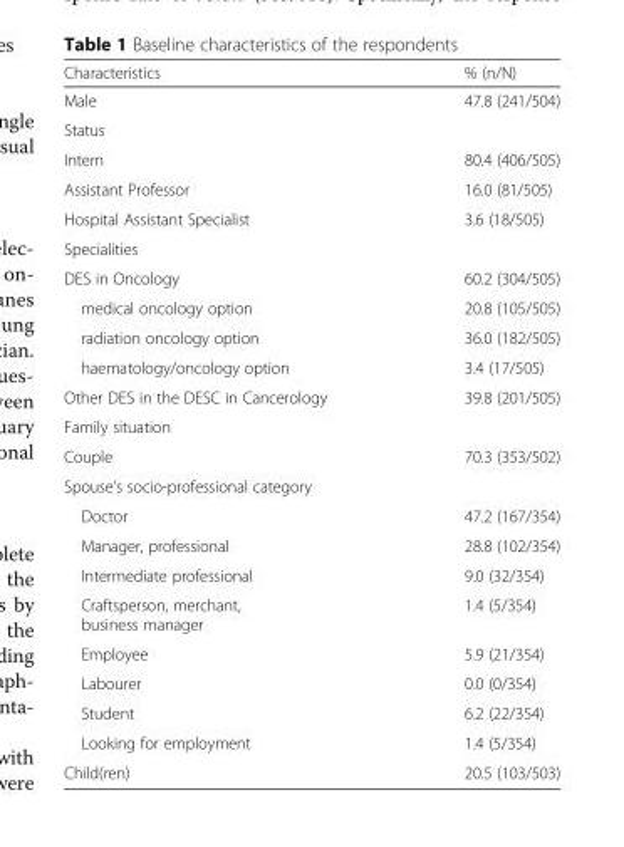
<table><thead><tr><td>Characteristics</td><td>% (n/N)</td></tr></thead><tbody><tr><td>Male</td><td>47.8 (241/504)</td></tr><tr><td colspan="2">Status</td></tr><tr><td>Intern</td><td>80.4 (406/505)</td></tr><tr><td>Assistant Professor</td><td>16.0 (81/505)</td></tr><tr><td>Hospital Assistant Specialist</td><td>3.6 (18/505)</td></tr><tr><td colspan="2">Specialities</td></tr><tr><td>DES in Oncology</td><td>60.2 (304/505)</td></tr><tr><td>medical oncology option</td><td>20.8 (105/505)</td></tr><tr><td>radiation oncology option</td><td>36.0 (182/505)</td></tr><tr><td>haematology/oncology option</td><td>3.4 (17/505)</td></tr><tr><td>Other DES in the DESC in Cancerology</td><td>39.8 (201/505)</td></tr><tr><td colspan="2">Family situation</td></tr><tr><td>Couple</td><td>70.3 (353/502)</td></tr><tr><td colspan="2">Spouse’s socio-professional category</td></tr><tr><td>Doctor</td><td>47.2 (167/354)</td></tr><tr><td>Manager, professional</td><td>28.8 (102/354)</td></tr><tr><td>Intermediate professional</td><td>9.0 (32/354)</td></tr><tr><td>Craftsperson, merchant, business manager</td><td>1.4 (5/354)</td></tr><tr><td>Employee</td><td>5.9 (21/354)</td></tr><tr><td>Labourer</td><td>0.0 (0/354)</td></tr><tr><td>Student</td><td>6.2 (22/354)</td></tr><tr><td>Looking for employment</td><td>1.4 (5/354)</td></tr><tr><td>Child(ren)</td><td>20.5 (103/503)</td></tr></tbody></table>